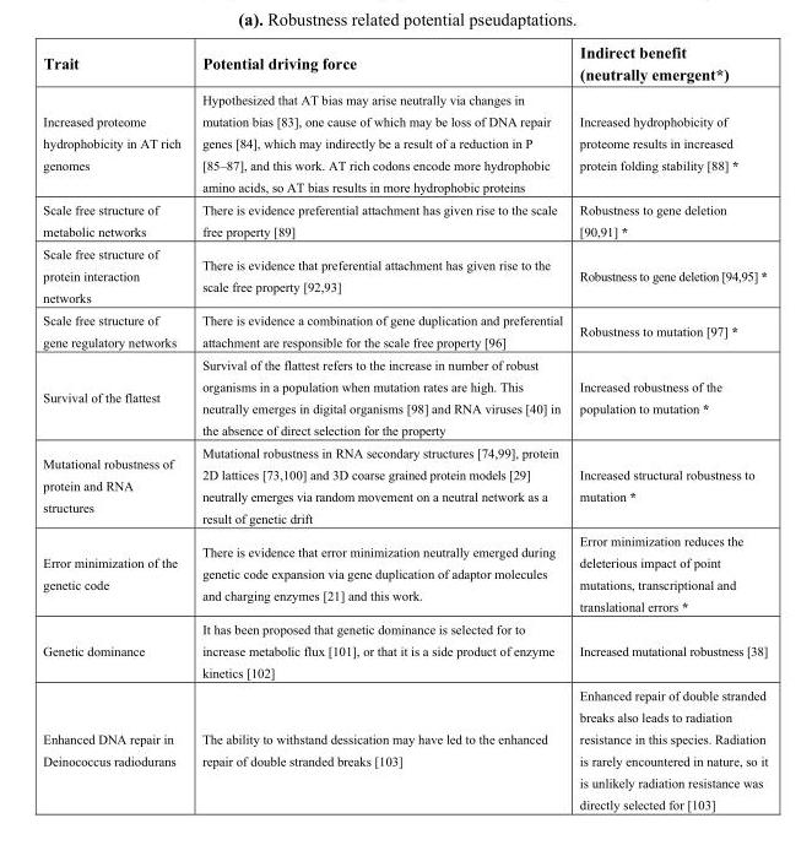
<table><thead><tr><td>Trait</td><td>Potential driving force</td><td>Indirect benefit (neutrally emergent*)</td></tr></thead><tbody><tr><td>Increased proteome hydrophobicity in AT rich genomes</td><td>Hypothesized that AT bias may arise neutrally via changes in mutation bias [83], one cause of which may be loss of DNA repair genes [84], which may indirectly be a result of a reduction in P [85–87], and this work. AT rich codons encode more hydrophobic amino acids, so AT bias results in more hydrophobic proteins</td><td>Increased hydrophobicity of proteome results in increased protein folding stability [88] *</td></tr><tr><td>Scale free structure of metabolic networks</td><td>There is evidence preferential attachment has given rise to the scale free property [89]</td><td>Robustness to gene deletion [90,91] *</td></tr><tr><td>Scale free structure of protein interaction networks</td><td>There is evidence that preferential attachment has given rise to the scale free property [92,93]</td><td>Robustness to gene deletion [94,95] *</td></tr><tr><td>Scale free structure of gene regulatory networks</td><td>There is evidence a combination of gene duplication and preferential attachment are responsible for the scale free property [96]</td><td>Robustness to mutation [97] *</td></tr><tr><td>Survival of the flattest</td><td>Survival of the flattest refers to the increase in number of robust organisms in a population when mutation rates are high. This neutrally emerges in digital organisms [98] and RNA viruses [40] in the absence of direct selection for the property</td><td>Increased robustness of the population to mutation *</td></tr><tr><td>Mutational robustness of protein and RNA structures</td><td>Mutational robustness in RNA secondary structures [74,99], protein 2D lattices [73,100] and 3D coarse grained protein models [29] neutrally emerges via random movement on a neutral network as a result of genetic drift</td><td>Increased structural robustness to mutation *</td></tr><tr><td>Error minimization of the genetic code</td><td>There is evidence that error minimization neutrally emerged during genetic code expansion via gene duplication of adaptor molecules and charging enzymes [21] and this work.</td><td>Error minimization reduces the deleterious impact of point mutations, transcriptional and translational errors *</td></tr><tr><td>Genetic dominance</td><td>It has been proposed that genetic dominance is selected for to increase metabolic flux [101], or that it is a side product of enzyme kinetics [102]</td><td>Increased mutational robustness [38]</td></tr><tr><td>Enhanced DNA repair in Deinococcus radiodurans</td><td>The ability to withstand dessication may have led to the enhanced repair of double stranded breaks [103]</td><td>Enhanced repair of double stranded breaks also leads to radiation resistance in this species. Radiation is rarely encountered in nature, so it is unlikely radiation resistance was directly selected for [103]</td></tr></tbody></table>